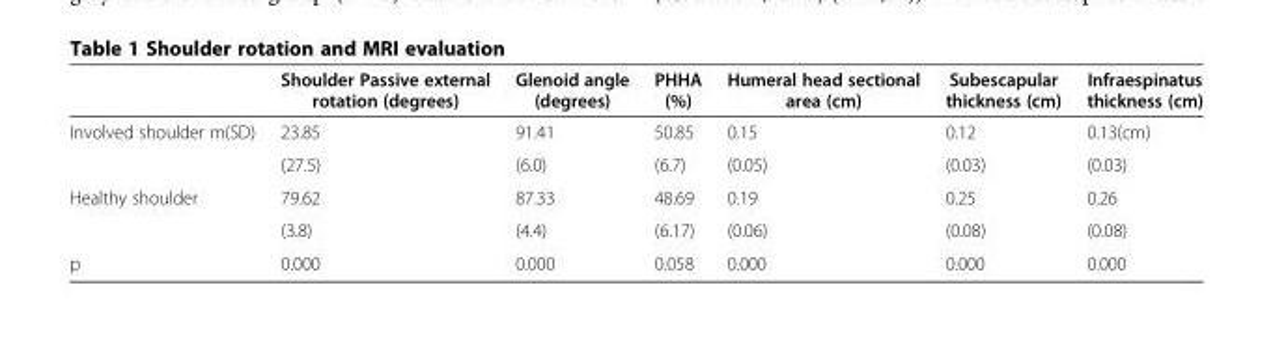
<table><thead><tr><td></td><td>Shoulder Passive external rotation (degrees)</td><td>Glenoid angle (degrees)</td><td>PHHA (%)</td><td>Humeral head sectional area (cm)</td><td>Subescapular thickness (cm)</td><td>Infraespinatus thickness (cm)</td></tr></thead><tbody><tr><td rowspan="2">Involved shoulder m(SD)</td><td>23.85</td><td>91.41</td><td>50.85</td><td>0.15</td><td>0.12</td><td>0.13(cm)</td></tr><tr><td>(27.5)</td><td>(6.0)</td><td>(6.7)</td><td>(0.05)</td><td>(0.03)</td><td>(0.03)</td></tr><tr><td rowspan="2">Healthy shoulder</td><td>79.62</td><td>87.33</td><td>48.69</td><td>0.19</td><td>0.25</td><td>0.26</td></tr><tr><td>(3.8)</td><td>(4.4)</td><td>(6.17)</td><td>(0.06)</td><td>(0.08)</td><td>(0.08)</td></tr><tr><td>p</td><td>0.000</td><td>0.000</td><td>0.058</td><td>0.000</td><td>0.000</td><td>0.000</td></tr></tbody></table>